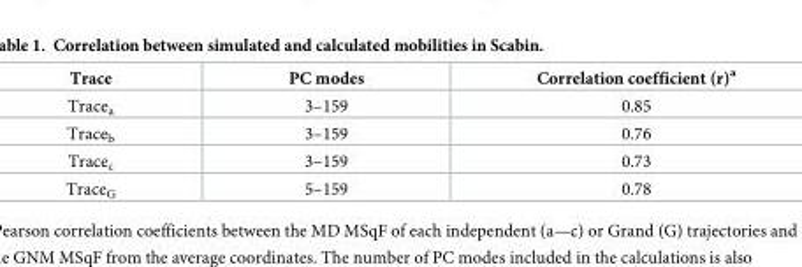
<table><thead><tr><td>Trace</td><td>PC modes</td><td>Correlation coefficient (r)<sup>a</sup></td></tr></thead><tbody><tr><td>Trace<sub>a</sub></td><td>3–159</td><td>0.85</td></tr><tr><td>Trace<sub>b</sub></td><td>3–159</td><td>0.76</td></tr><tr><td>Trace<sub>c</sub></td><td>3–159</td><td>0.73</td></tr><tr><td>Trace<sub>G</sub></td><td>5–159</td><td>0.78</td></tr></tbody></table>